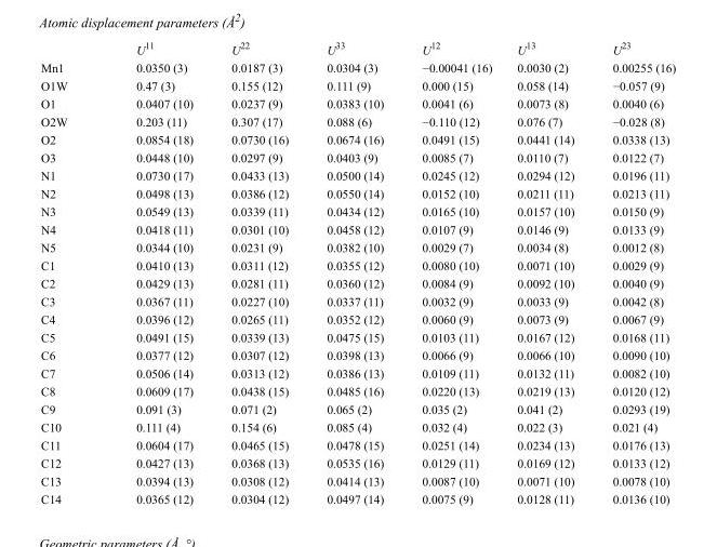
<table><thead><tr><td></td><td>U<sup>11</sup></td><td>U<sup>22</sup></td><td>U<sup>33</sup></td><td>U<sup>12</sup></td><td>U<sup>13</sup></td><td>U<sup>23</sup></td></tr></thead><tbody><tr><td>Mn1</td><td>0.0350 (3)</td><td>0.0187 (3)</td><td>0.0304 (3)</td><td>−0.00041 (16)</td><td>0.0030 (2)</td><td>0.00255 (16)</td></tr><tr><td>O1W</td><td>0.47 (3)</td><td>0.155 (12)</td><td>0.111 (9)</td><td>0.000 (15)</td><td>0.058 (14)</td><td>−0.057 (9)</td></tr><tr><td>O1</td><td>0.0407 (10)</td><td>0.0237 (9)</td><td>0.0383 (10)</td><td>0.0041 (6)</td><td>0.0073 (8)</td><td>0.0040 (6)</td></tr><tr><td>O2W</td><td>0.203 (11)</td><td>0.307 (17)</td><td>0.088 (6)</td><td>−0.110 (12)</td><td>0.076 (7)</td><td>−0.028 (8)</td></tr><tr><td>O2</td><td>0.0854 (18)</td><td>0.0730 (16)</td><td>0.0674 (16)</td><td>0.0491 (15)</td><td>0.0441 (14)</td><td>0.0338 (13)</td></tr><tr><td>O3</td><td>0.0448 (10)</td><td>0.0297 (9)</td><td>0.0403 (9)</td><td>0.0085 (7)</td><td>0.0110 (7)</td><td>0.0122 (7)</td></tr><tr><td>N1</td><td>0.0730 (17)</td><td>0.0433 (13)</td><td>0.0500 (14)</td><td>0.0245 (12)</td><td>0.0294 (12)</td><td>0.0196 (11)</td></tr><tr><td>N2</td><td>0.0498 (13)</td><td>0.0386 (12)</td><td>0.0550 (14)</td><td>0.0152 (10)</td><td>0.0211 (11)</td><td>0.0213 (11)</td></tr><tr><td>N3</td><td>0.0549 (13)</td><td>0.0339 (11)</td><td>0.0434 (12)</td><td>0.0165 (10)</td><td>0.0157 (10)</td><td>0.0150 (9)</td></tr><tr><td>N4</td><td>0.0418 (11)</td><td>0.0301 (10)</td><td>0.0458 (12)</td><td>0.0107 (9)</td><td>0.0146 (9)</td><td>0.0133 (9)</td></tr><tr><td>N5</td><td>0.0344 (10)</td><td>0.0231 (9)</td><td>0.0382 (10)</td><td>0.0029 (7)</td><td>0.0034 (8)</td><td>0.0012 (8)</td></tr><tr><td>C1</td><td>0.0410 (13)</td><td>0.0311 (12)</td><td>0.0355 (12)</td><td>0.0080 (10)</td><td>0.0071 (10)</td><td>0.0029 (9)</td></tr><tr><td>C2</td><td>0.0429 (13)</td><td>0.0281 (11)</td><td>0.0360 (12)</td><td>0.0084 (9)</td><td>0.0092 (10)</td><td>0.0040 (9)</td></tr><tr><td>C3</td><td>0.0367 (11)</td><td>0.0227 (10)</td><td>0.0337 (11)</td><td>0.0032 (9)</td><td>0.0033 (9)</td><td>0.0042 (8)</td></tr><tr><td>C4</td><td>0.0396 (12)</td><td>0.0265 (11)</td><td>0.0352 (12)</td><td>0.0060 (9)</td><td>0.0073 (9)</td><td>0.0067 (9)</td></tr><tr><td>C5</td><td>0.0491 (15)</td><td>0.0339 (13)</td><td>0.0475 (15)</td><td>0.0103 (11)</td><td>0.0167 (12)</td><td>0.0168 (11)</td></tr><tr><td>C6</td><td>0.0377 (12)</td><td>0.0307 (12)</td><td>0.0398 (13)</td><td>0.0066 (9)</td><td>0.0066 (10)</td><td>0.0090 (10)</td></tr><tr><td>C7</td><td>0.0506 (14)</td><td>0.0313 (12)</td><td>0.0386 (13)</td><td>0.0109 (11)</td><td>0.0132 (11)</td><td>0.0082 (10)</td></tr><tr><td>C8</td><td>0.0609 (17)</td><td>0.0438 (15)</td><td>0.0485 (16)</td><td>0.0220 (13)</td><td>0.0219 (13)</td><td>0.0120 (12)</td></tr><tr><td>C9</td><td>0.091 (3)</td><td>0.071 (2)</td><td>0.065 (2)</td><td>0.035 (2)</td><td>0.041 (2)</td><td>0.0293 (19)</td></tr><tr><td>C10</td><td>0.111 (4)</td><td>0.154 (6)</td><td>0.085 (4)</td><td>0.032 (4)</td><td>0.022 (3)</td><td>0.021 (4)</td></tr><tr><td>C11</td><td>0.0604 (17)</td><td>0.0465 (15)</td><td>0.0478 (15)</td><td>0.0251 (14)</td><td>0.0234 (13)</td><td>0.0176 (13)</td></tr><tr><td>C12</td><td>0.0427 (13)</td><td>0.0368 (13)</td><td>0.0535 (16)</td><td>0.0129 (11)</td><td>0.0169 (12)</td><td>0.0133 (12)</td></tr><tr><td>C13</td><td>0.0394 (13)</td><td>0.0308 (12)</td><td>0.0414 (13)</td><td>0.0087 (10)</td><td>0.0071 (10)</td><td>0.0078 (10)</td></tr><tr><td>C14</td><td>0.0365 (12)</td><td>0.0304 (12)</td><td>0.0497 (14)</td><td>0.0075 (9)</td><td>0.0128 (11)</td><td>0.0136 (10)</td></tr></tbody></table>